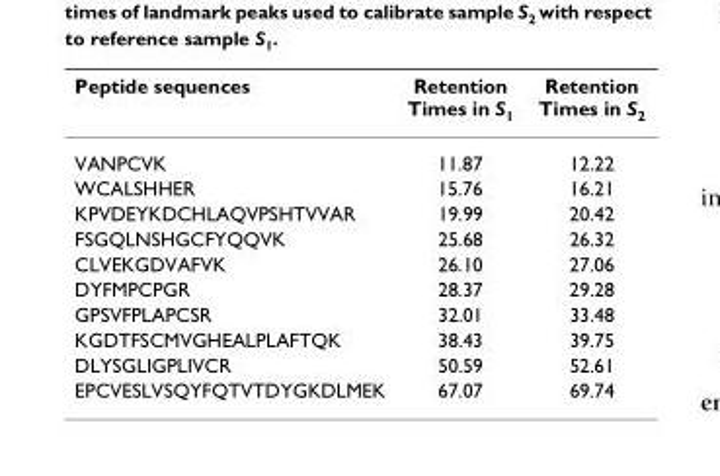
<table><thead><tr><td>Peptide sequences</td><td>Retention Times in S<sub>1</sub></td><td>Retention Times in S<sub>2</sub></td></tr></thead><tbody><tr><td>VANPCVK</td><td>11.87</td><td>12.22</td></tr><tr><td>WCALSHHER</td><td>15.76</td><td>16.21</td></tr><tr><td>KPVDEYKDCHLAQVPSHTVVAR</td><td>19.99</td><td>20.42</td></tr><tr><td>FSGQLNSHGCFYQQVK</td><td>25.68</td><td>26.32</td></tr><tr><td>CLVEKGDVAFVK</td><td>26.10</td><td>27.06</td></tr><tr><td>DYFMPCPGR</td><td>28.37</td><td>29.28</td></tr><tr><td>GPSVFPLAPCSR</td><td>32.01</td><td>33.48</td></tr><tr><td>KGDTFSCMVGHEALPLAFTQK</td><td>38.43</td><td>39.75</td></tr><tr><td>DLYSGLIGPLIVCR</td><td>50.59</td><td>52.61</td></tr><tr><td>EPCVESLVSQYFQTVTDYGKDLMEK</td><td>67.07</td><td>69.74</td></tr></tbody></table>